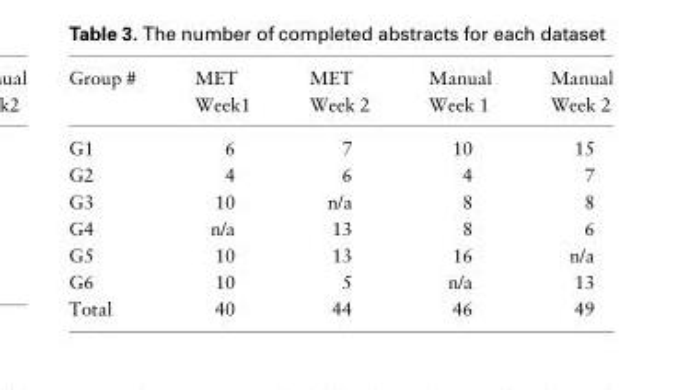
<table><thead><tr><td>Group #</td><td>MET Week1</td><td>MET Week 2</td><td>Manual Week 1</td><td>Manual Week 2</td></tr></thead><tbody><tr><td>G1</td><td>6</td><td>7</td><td>10</td><td>15</td></tr><tr><td>G2</td><td>4</td><td>6</td><td>4</td><td>7</td></tr><tr><td>G3</td><td>10</td><td>n/a</td><td>8</td><td>8</td></tr><tr><td>G4</td><td>n/a</td><td>13</td><td>8</td><td>6</td></tr><tr><td>G5</td><td>10</td><td>13</td><td>16</td><td>n/a</td></tr><tr><td>G6</td><td>10</td><td>5</td><td>n/a</td><td>13</td></tr><tr><td>Total</td><td>40</td><td>44</td><td>46</td><td>49</td></tr></tbody></table>